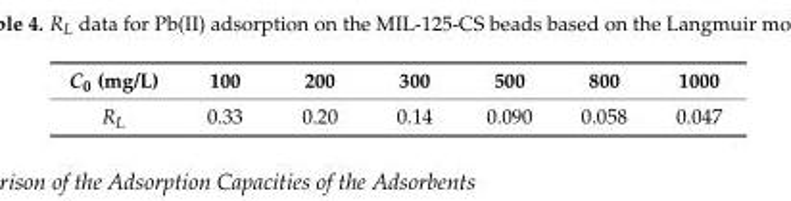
<table><thead><tr><td>C0 (mg/L)</td><td>100</td><td>200</td><td>300</td><td>500</td><td>800</td><td>1000</td></tr></thead><tbody><tr><td>RL</td><td>0.33</td><td>0.20</td><td>0.14</td><td>0.090</td><td>0.058</td><td>0.047</td></tr></tbody></table>